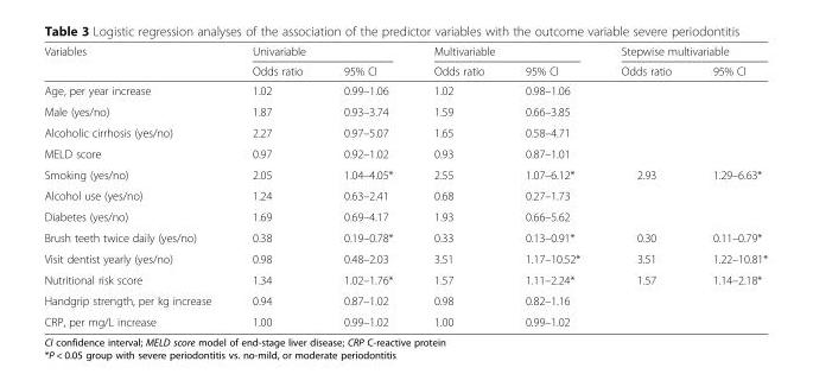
<table><thead><tr><td rowspan="2">Variables</td><td colspan="2">Univariable</td><td colspan="2">Multivariable</td><td colspan="2">Stepwise multivariable</td></tr><tr><td>Odds ratio</td><td>95% CI</td><td>Odds ratio</td><td>95% CI</td><td>Odds ratio</td><td>95% CI</td></tr></thead><tbody><tr><td>Age, per year increase</td><td>1.02</td><td>0.99–1.06</td><td>1.02</td><td>0.98–1.06</td><td></td><td></td></tr><tr><td>Male (yes/no)</td><td>1.87</td><td>0.93–3.74</td><td>1.59</td><td>0.66–3.85</td><td></td><td></td></tr><tr><td>Alcoholic cirrhosis (yes/no)</td><td>2.27</td><td>0.97–5.07</td><td>1.65</td><td>0.58–4.71</td><td></td><td></td></tr><tr><td>MELD score</td><td>0.97</td><td>0.92–1.02</td><td>0.93</td><td>0.87–1.01</td><td></td><td></td></tr><tr><td>Smoking (yes/no)</td><td>2.05</td><td>1.04–4.05*</td><td>2.55</td><td>1.07–6.12*</td><td>2.93</td><td>1.29–6.63*</td></tr><tr><td>Alcohol use (yes/no)</td><td>1.24</td><td>0.63–2.41</td><td>0.68</td><td>0.27–1.73</td><td></td><td></td></tr><tr><td>Diabetes (yes/no)</td><td>1.69</td><td>0.69–4.17</td><td>1.93</td><td>0.66–5.62</td><td></td><td></td></tr><tr><td>Brush teeth twice daily (yes/no)</td><td>0.38</td><td>0.19–0.78*</td><td>0.33</td><td>0.13–0.91*</td><td>0.30</td><td>0.11–0.79*</td></tr><tr><td>Visit dentist yearly (yes/no)</td><td>0.98</td><td>0.48–2.03</td><td>3.51</td><td>1.17–10.52*</td><td>3.51</td><td>1.22–10.81*</td></tr><tr><td>Nutritional risk score</td><td>1.34</td><td>1.02–1.76*</td><td>1.57</td><td>1.11–2.24*</td><td>1.57</td><td>1.14–2.18*</td></tr><tr><td>Handgrip strength, per kg increase</td><td>0.94</td><td>0.87–1.02</td><td>0.98</td><td>0.82–1.16</td><td></td><td></td></tr><tr><td>CRP, per mg/L increase</td><td>1.00</td><td>0.99–1.02</td><td>1.00</td><td>0.99–1.02</td><td></td><td></td></tr></tbody></table>